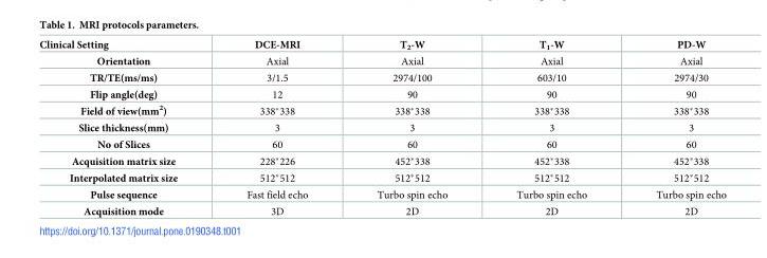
<table><thead><tr><td>Clinical Setting</td><td>DCE-MRI</td><td>T<sub>2</sub>-W</td><td>T<sub>1</sub>-W</td><td>PD-W</td></tr></thead><tbody><tr><td>Orientation</td><td>Axial</td><td>Axial</td><td>Axial</td><td>Axial</td></tr><tr><td>TR/TE(ms/ms)</td><td>3/1.5</td><td>2974/100</td><td>603/10</td><td>2974/30</td></tr><tr><td>Flip angle(deg)</td><td>12</td><td>90</td><td>90</td><td>90</td></tr><tr><td>Field of view(mm<sup>2</sup>)</td><td>338*338</td><td>338*338</td><td>338*338</td><td>338*338</td></tr><tr><td>Slice thickness(mm)</td><td>3</td><td>3</td><td>3</td><td>3</td></tr><tr><td>No of Slices</td><td>60</td><td>60</td><td>60</td><td>60</td></tr><tr><td>Acquisition matrix size</td><td>228*226</td><td>452*338</td><td>452*338</td><td>452*338</td></tr><tr><td>Interpolated matrix size</td><td>512*512</td><td>512*512</td><td>512*512</td><td>512*512</td></tr><tr><td>Pulse sequence</td><td>Fast field echo</td><td>Turbo spin echo</td><td>Turbo spin echo</td><td>Turbo spin echo</td></tr><tr><td>Acquisition mode</td><td>3D</td><td>2D</td><td>2D</td><td>2D</td></tr></tbody></table>